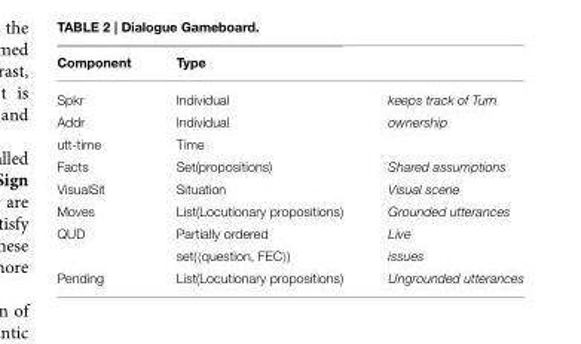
<table><thead><tr><td>Component</td><td>Type</td><td></td></tr></thead><tbody><tr><td>Spkr</td><td>Individual</td><td>keeps track of Turn</td></tr><tr><td>Addr</td><td>Individual</td><td>ownership</td></tr><tr><td>utt-time</td><td>Time</td><td></td></tr><tr><td>Facts</td><td>Set(propositions)</td><td>Shared assumptions</td></tr><tr><td>VisualSit</td><td>Situation</td><td>Visual scene</td></tr><tr><td>Moves</td><td>List(Locutionary propositions)</td><td>Grounded utterances</td></tr><tr><td rowspan="2">QUD</td><td>Partially ordered</td><td>Live</td></tr><tr><td>set(⟨question, FEC⟩)</td><td>issues</td></tr><tr><td>Pending</td><td>List(Locutionary propositions)</td><td>Ungrounded utterances</td></tr></tbody></table>